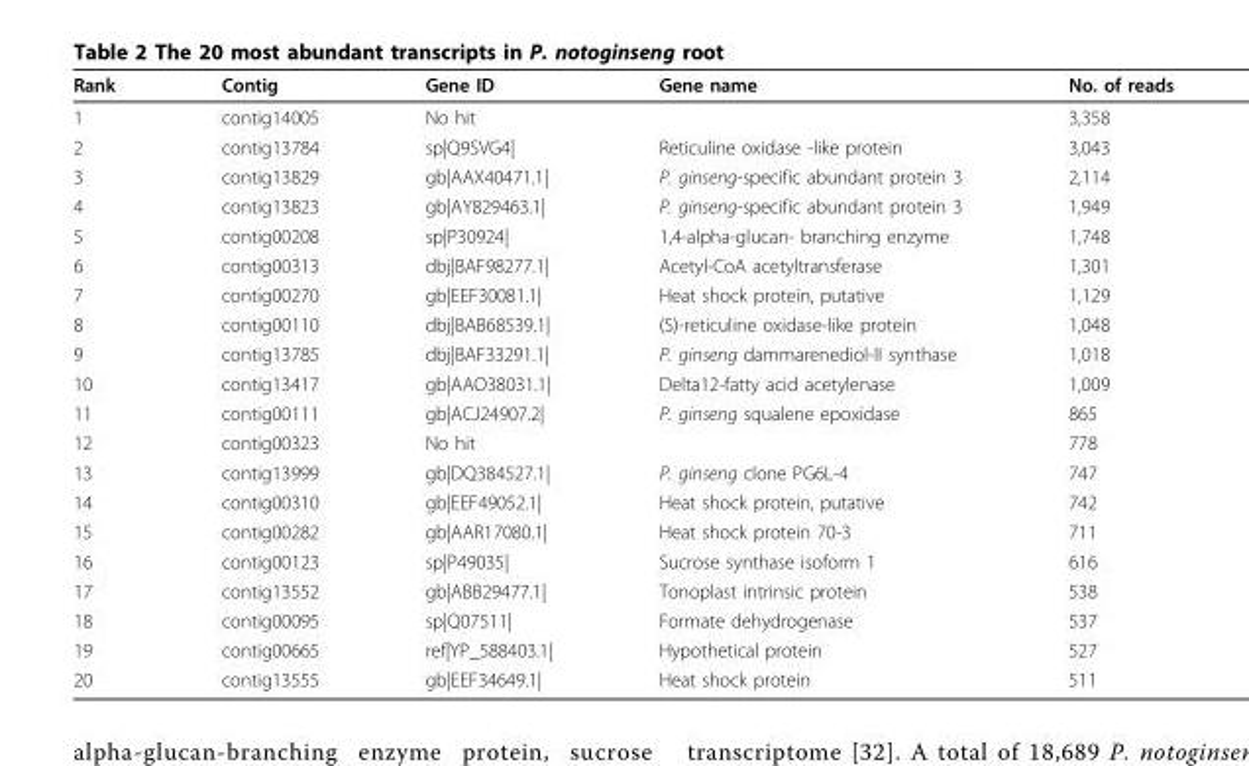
<table><thead><tr><td>Rank</td><td>Contig</td><td>Gene ID</td><td>Gene name</td><td>No. of reads</td></tr></thead><tbody><tr><td>1</td><td>contig14005</td><td>No hit</td><td></td><td>3,358</td></tr><tr><td>2</td><td>contig13784</td><td>sp|Q9SVG4|</td><td>Reticuline oxidase -like protein</td><td>3,043</td></tr><tr><td>3</td><td>contig13829</td><td>gb|AAX40471.1|</td><td>P. ginseng-specific abundant protein 3</td><td>2,114</td></tr><tr><td>4</td><td>contig13823</td><td>gb|AY829463.1|</td><td>P. ginseng-specific abundant protein 3</td><td>1,949</td></tr><tr><td>5</td><td>contig00208</td><td>sp|P30924|</td><td>1,4-alpha-glucan- branching enzyme</td><td>1,748</td></tr><tr><td>6</td><td>contig00313</td><td>dbj|BAF98277.1|</td><td>Acetyl-CoA acetyltransferase</td><td>1,301</td></tr><tr><td>7</td><td>contig00270</td><td>gb|EEF30081.1|</td><td>Heat shock protein, putative</td><td>1,129</td></tr><tr><td>8</td><td>contig00110</td><td>dbj|BAB68539.1|</td><td>(S)-reticuline oxidase-like protein</td><td>1,048</td></tr><tr><td>9</td><td>contig13785</td><td>dbj|BAF33291.1|</td><td>P. ginseng dammarenediol-II synthase</td><td>1,018</td></tr><tr><td>10</td><td>contig13417</td><td>gb|AAO38031.1|</td><td>Delta12-fatty acid acetylenase</td><td>1,009</td></tr><tr><td>11</td><td>contig00111</td><td>gb|ACJ24907.2|</td><td>P. ginseng squalene epoxidase</td><td>865</td></tr><tr><td>12</td><td>contig00323</td><td>No hit</td><td></td><td>778</td></tr><tr><td>13</td><td>contig13999</td><td>gb|DQ384527.1|</td><td>P. ginseng clone PG6L-4</td><td>747</td></tr><tr><td>14</td><td>contig00310</td><td>gb|EEF49052.1|</td><td>Heat shock protein, putative</td><td>742</td></tr><tr><td>15</td><td>contig00282</td><td>gb|AAR17080.1|</td><td>Heat shock protein 70-3</td><td>711</td></tr><tr><td>16</td><td>contig00123</td><td>sp|P49035|</td><td>Sucrose synthase isoform 1</td><td>616</td></tr><tr><td>17</td><td>contig13552</td><td>gb|ABB29477.1|</td><td>Tonoplast intrinsic protein</td><td>538</td></tr><tr><td>18</td><td>contig00095</td><td>sp|Q07511|</td><td>Formate dehydrogenase</td><td>537</td></tr><tr><td>19</td><td>contig00665</td><td>ref|YP_588403.1|</td><td>Hypothetical protein</td><td>527</td></tr><tr><td>20</td><td>contig13555</td><td>gb|EEF34649.1|</td><td>Heat shock protein</td><td>511</td></tr></tbody></table>